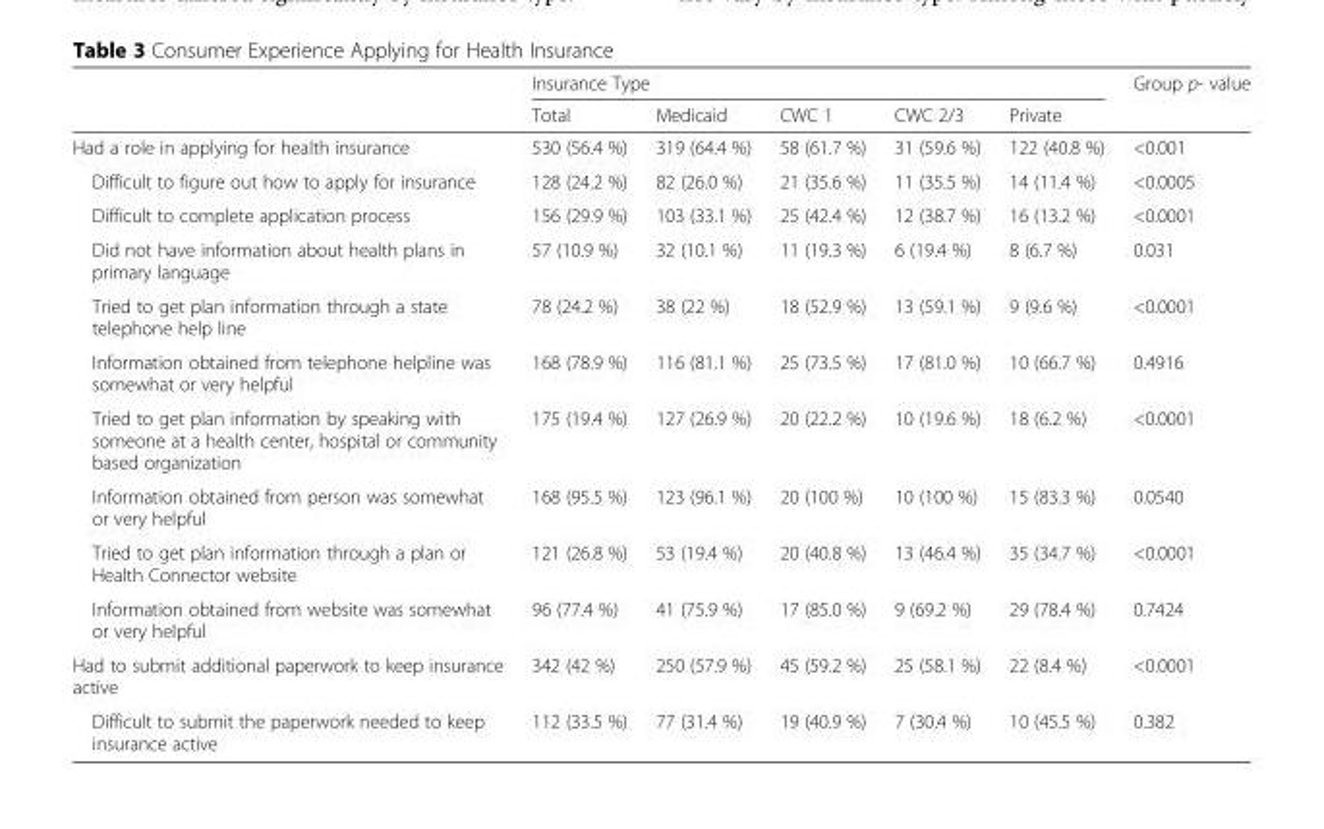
<table><thead><tr><td rowspan="2"></td><td colspan="5">Insurance Type</td><td rowspan="2">Group p- value</td></tr><tr><td>Total</td><td>Medicaid</td><td>CWC 1</td><td>CWC 2/3</td><td>Private</td></tr></thead><tbody><tr><td>Had a role in applying for health insurance</td><td>530 (56.4 %)</td><td>319 (64.4 %)</td><td>58 (61.7 %)</td><td>31 (59.6 %)</td><td>122 (40.8 %)</td><td>&lt;0.001</td></tr><tr><td>Difficult to figure out how to apply for insurance</td><td>128 (24.2 %)</td><td>82 (26.0 %)</td><td>21 (35.6 %)</td><td>11 (35.5 %)</td><td>14 (11.4 %)</td><td>&lt;0.0005</td></tr><tr><td>Difficult to complete application process</td><td>156 (29.9 %)</td><td>103 (33.1 %)</td><td>25 (42.4 %)</td><td>12 (38.7 %)</td><td>16 (13.2 %)</td><td>&lt;0.0001</td></tr><tr><td>Did not have information about health plans in primary language</td><td>57 (10.9 %)</td><td>32 (10.1 %)</td><td>11 (19.3 %)</td><td>6 (19.4 %)</td><td>8 (6.7 %)</td><td>0.031</td></tr><tr><td>Tried to get plan information through a state telephone help line</td><td>78 (24.2 %)</td><td>38 (22 %)</td><td>18 (52.9 %)</td><td>13 (59.1 %)</td><td>9 (9.6 %)</td><td>&lt;0.0001</td></tr><tr><td>Information obtained from telephone helpline was somewhat or very helpful</td><td>168 (78.9 %)</td><td>116 (81.1 %)</td><td>25 (73.5 %)</td><td>17 (81.0 %)</td><td>10 (66.7 %)</td><td>0.4916</td></tr><tr><td>Tried to get plan information by speaking with someone at a health center, hospital or community based organization</td><td>175 (19.4 %)</td><td>127 (26.9 %)</td><td>20 (22.2 %)</td><td>10 (19.6 %)</td><td>18 (6.2 %)</td><td>&lt;0.0001</td></tr><tr><td>Information obtained from person was somewhat or very helpful</td><td>168 (95.5 %)</td><td>123 (96.1 %)</td><td>20 (100 %)</td><td>10 (100 %)</td><td>15 (83.3 %)</td><td>0.0540</td></tr><tr><td>Tried to get plan information through a plan or Health Connector website</td><td>121 (26.8 %)</td><td>53 (19.4 %)</td><td>20 (40.8 %)</td><td>13 (46.4 %)</td><td>35 (34.7 %)</td><td>&lt;0.0001</td></tr><tr><td>Information obtained from website was somewhat or very helpful</td><td>96 (77.4 %)</td><td>41 (75.9 %)</td><td>17 (85.0 %)</td><td>9 (69.2 %)</td><td>29 (78.4 %)</td><td>0.7424</td></tr><tr><td>Had to submit additional paperwork to keep insurance active</td><td>342 (42 %)</td><td>250 (57.9 %)</td><td>45 (59.2 %)</td><td>25 (58.1 %)</td><td>22 (8.4 %)</td><td>&lt;0.0001</td></tr><tr><td>Difficult to submit the paperwork needed to keep insurance active</td><td>112 (33.5 %)</td><td>77 (31.4 %)</td><td>19 (40.9 %)</td><td>7 (30.4 %)</td><td>10 (45.5 %)</td><td>0.382</td></tr></tbody></table>